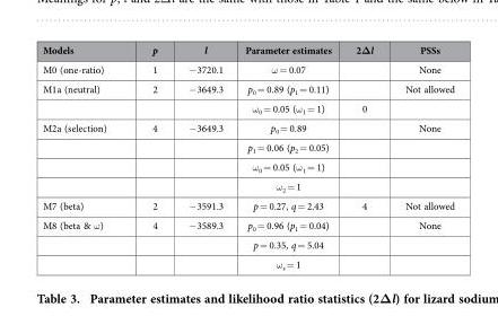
<table><thead><tr><td>Models</td><td>p</td><td>l</td><td>Parameter estimates</td><td>2Δl</td><td>PSSs</td></tr></thead><tbody><tr><td>M0 (one-ratio)</td><td>1</td><td>− 3720.1</td><td>ω = 0.07</td><td></td><td>None</td></tr><tr><td rowspan="2">M1a (neutral)</td><td>2</td><td>− 3649.3</td><td>p<sub>0</sub> = 0.89 (p<sub>1</sub> = 0.11)</td><td></td><td>Not allowed</td></tr><tr><td></td><td></td><td>ω <sub>0</sub> = 0.05 (ω <sub>1</sub> = 1)</td><td>0</td><td></td></tr><tr><td rowspan="4">M2a (selection)</td><td>4</td><td>− 3649.3</td><td>p<sub>0</sub> = 0.89</td><td></td><td>None</td></tr><tr><td></td><td></td><td>p<sub>1</sub> = 0.06 (p<sub>2</sub> = 0.05)</td><td></td><td></td></tr><tr><td></td><td></td><td>ω <sub>0</sub> = 0.05 (ω <sub>1</sub> = 1)</td><td></td><td></td></tr><tr><td></td><td></td><td>ω <sub>2</sub> = 1</td><td></td><td></td></tr><tr><td>M7 (beta)</td><td>2</td><td>− 3591.3</td><td>p = 0.27, q = 2.43</td><td>4</td><td>Not allowed</td></tr><tr><td rowspan="3">M8 (beta &amp; ω )</td><td>4</td><td>− 3589.3</td><td>p<sub>0</sub> = 0.96 (p<sub>1</sub> = 0.04)</td><td></td><td>None</td></tr><tr><td></td><td></td><td>p = 0.35, q = 5.04</td><td></td><td></td></tr><tr><td></td><td></td><td>ω <sub>s</sub> = 1</td><td></td><td></td></tr></tbody></table>